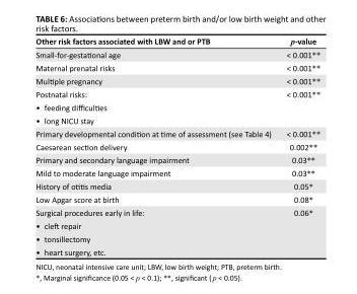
<table><thead><tr><td>Other risk factors associated with LBW and or PTB</td><td>p-value</td></tr></thead><tbody><tr><td>Small-for-gestational age</td><td>&lt; 0.001**</td></tr><tr><td>Maternal prenatal risks</td><td>&lt; 0.001**</td></tr><tr><td>Multiple pregnancy</td><td>&lt; 0.001**</td></tr><tr><td>Postnatal risks: • feeding difficulties • long NICU stay</td><td>&lt; 0.001**</td></tr><tr><td>Primary developmental condition at time of assessment (see Table 4)</td><td>&lt; 0.001**</td></tr><tr><td>Caesarean section delivery</td><td>0.002**</td></tr><tr><td>Primary and secondary language impairment</td><td>0.03**</td></tr><tr><td>Mild to moderate language impairment</td><td>0.03**</td></tr><tr><td>History of otitis media</td><td>0.05*</td></tr><tr><td>Low Apgar score at birth</td><td>0.08*</td></tr><tr><td>Surgical procedures early in life: • cleft repair • tonsillectomy • heart surgery, etc.</td><td>0.06*</td></tr></tbody></table>